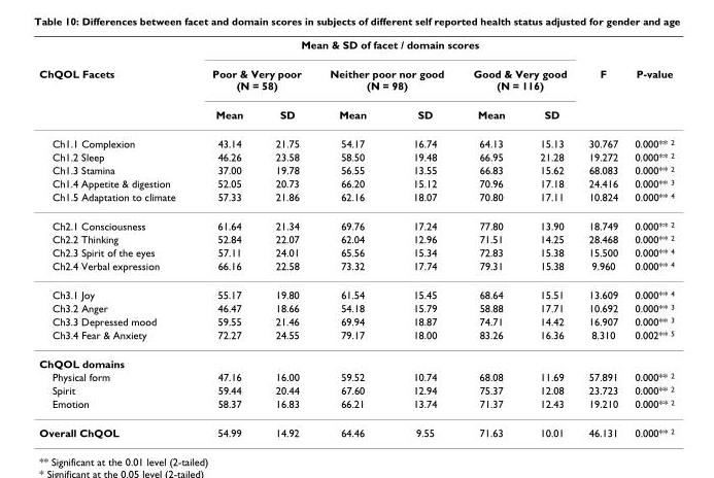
<table><thead><tr><td rowspan="3">ChQOL Facets</td><td colspan="6">Mean &amp; SD of facet / domain scores</td><td rowspan="3">F</td><td rowspan="3">P-value</td></tr><tr><td colspan="2">Poor &amp; Very poor (N = 58)</td><td colspan="2">Neither poor nor good (N = 98)</td><td colspan="2">Good &amp; Very good (N = 116)</td></tr><tr><td>Mean</td><td>SD</td><td>Mean</td><td>SD</td><td>Mean</td><td>SD</td></tr></thead><tbody><tr><td>Ch1.1 Complexion</td><td>43.14</td><td>21.75</td><td>54.17</td><td>16.74</td><td>64.13</td><td>15.13</td><td>30.767</td><td>0.000** <sup>2</sup></td></tr><tr><td>Ch1.2 Sleep</td><td>46.26</td><td>23.58</td><td>58.50</td><td>19.48</td><td>66.95</td><td>21.28</td><td>19.272</td><td>0.000** <sup>2</sup></td></tr><tr><td>Ch1.3 Stamina</td><td>37.00</td><td>19.78</td><td>56.55</td><td>13.55</td><td>66.83</td><td>15.62</td><td>68.083</td><td>0.000** <sup>2</sup></td></tr><tr><td>Ch1.4 Appetite &amp; digestion</td><td>52.05</td><td>20.73</td><td>66.20</td><td>15.12</td><td>70.96</td><td>17.18</td><td>24.416</td><td>0.000** <sup>3</sup></td></tr><tr><td>Ch1.5 Adaptation to climate</td><td>57.33</td><td>21.86</td><td>62.16</td><td>18.07</td><td>70.80</td><td>17.11</td><td>10.824</td><td>0.000** <sup>4</sup></td></tr><tr><td>Ch2.1 Consciousness</td><td>61.64</td><td>21.34</td><td>69.76</td><td>17.24</td><td>77.80</td><td>13.90</td><td>18.749</td><td>0.000** <sup>2</sup></td></tr><tr><td>Ch2.2 Thinking</td><td>52.84</td><td>22.07</td><td>62.04</td><td>12.96</td><td>71.51</td><td>14.25</td><td>28.468</td><td>0.000** <sup>2</sup></td></tr><tr><td>Ch2.3 Spirit of the eyes</td><td>57.11</td><td>24.01</td><td>65.56</td><td>15.34</td><td>72.83</td><td>15.38</td><td>15.500</td><td>0.000** <sup>4</sup></td></tr><tr><td>Ch2.4 Verbal expression</td><td>66.16</td><td>22.58</td><td>73.32</td><td>17.74</td><td>79.31</td><td>15.38</td><td>9.960</td><td>0.000** <sup>4</sup></td></tr><tr><td>Ch3.1 Joy</td><td>55.17</td><td>19.80</td><td>61.54</td><td>15.45</td><td>68.64</td><td>15.51</td><td>13.609</td><td>0.000** <sup>4</sup></td></tr><tr><td>Ch3.2 Anger</td><td>46.47</td><td>18.66</td><td>54.18</td><td>15.79</td><td>58.88</td><td>17.71</td><td>10.692</td><td>0.000** <sup>3</sup></td></tr><tr><td>Ch3.3 Depressed mood</td><td>59.55</td><td>21.46</td><td>69.94</td><td>18.87</td><td>74.71</td><td>14.42</td><td>16.907</td><td>0.000** <sup>3</sup></td></tr><tr><td>Ch3.4 Fear &amp; Anxiety</td><td>72.27</td><td>24.55</td><td>79.17</td><td>18.00</td><td>83.26</td><td>16.36</td><td>8.310</td><td>0.002** <sup>5</sup></td></tr><tr><td colspan="9">ChQOL domains</td></tr><tr><td>Physical form</td><td>47.16</td><td>16.00</td><td>59.52</td><td>10.74</td><td>68.08</td><td>11.69</td><td>57.891</td><td>0.000** <sup>2</sup></td></tr><tr><td>Spirit</td><td>59.44</td><td>20.44</td><td>67.60</td><td>12.94</td><td>75.37</td><td>12.08</td><td>23.723</td><td>0.000** <sup>2</sup></td></tr><tr><td>Emotion</td><td>58.37</td><td>16.83</td><td>66.21</td><td>13.74</td><td>71.37</td><td>12.43</td><td>19.210</td><td>0.000** <sup>2</sup></td></tr><tr><td>Overall ChQOL</td><td>54.99</td><td>14.92</td><td>64.46</td><td>9.55</td><td>71.63</td><td>10.01</td><td>46.131</td><td>0.000** <sup>2</sup></td></tr></tbody></table>